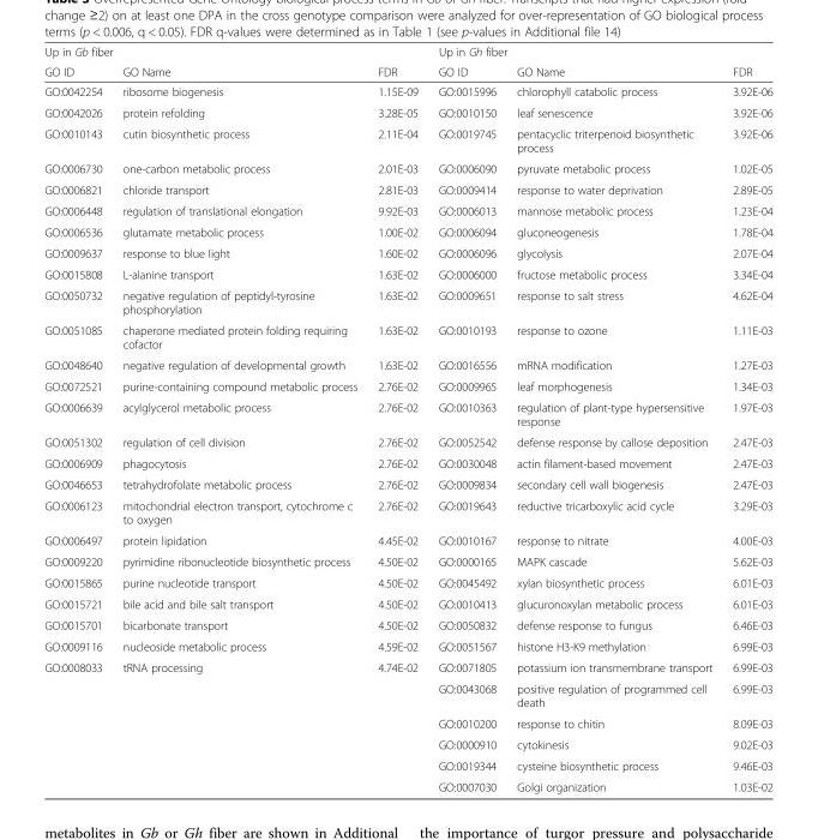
<table><thead><tr><td colspan="3">Up in Gb fiber</td><td colspan="3">Up in Gh fiber</td></tr><tr><td>GO ID</td><td>GO Name</td><td>FDR</td><td>GO ID</td><td>GO Name</td><td>FDR</td></tr></thead><tbody><tr><td>GO:0042254</td><td>ribosome biogenesis</td><td>1.15E-09</td><td>GO:0015996</td><td>chlorophyll catabolic process</td><td>3.92E-06</td></tr><tr><td>GO:0042026</td><td>protein refolding</td><td>3.28E-05</td><td>GO:0010150</td><td>leaf senescence</td><td>3.92E-06</td></tr><tr><td>GO:0010143</td><td>cutin biosynthetic process</td><td>2.11E-04</td><td>GO:0019745</td><td>pentacyclic triterpenoid biosynthetic process</td><td>3.92E-06</td></tr><tr><td>GO:0006730</td><td>one-carbon metabolic process</td><td>2.01E-03</td><td>GO:0006090</td><td>pyruvate metabolic process</td><td>1.02E-05</td></tr><tr><td>GO:0006821</td><td>chloride transport</td><td>2.81E-03</td><td>GO:0009414</td><td>response to water deprivation</td><td>2.89E-05</td></tr><tr><td>GO:0006448</td><td>regulation of translational elongation</td><td>9.92E-03</td><td>GO:0006013</td><td>mannose metabolic process</td><td>1.23E-04</td></tr><tr><td>GO:0006536</td><td>glutamate metabolic process</td><td>1.00E-02</td><td>GO:0006094</td><td>gluconeogenesis</td><td>1.78E-04</td></tr><tr><td>GO:0009637</td><td>response to blue light</td><td>1.60E-02</td><td>GO:0006096</td><td>glycolysis</td><td>2.07E-04</td></tr><tr><td>GO:0015808</td><td>L-alanine transport</td><td>1.63E-02</td><td>GO:0006000</td><td>fructose metabolic process</td><td>3.34E-04</td></tr><tr><td>GO:0050732</td><td>negative regulation of peptidyl-tyrosine phosphorylation</td><td>1.63E-02</td><td>GO:0009651</td><td>response to salt stress</td><td>4.62E-04</td></tr><tr><td>GO:0051085</td><td>chaperone mediated protein folding requiring cofactor</td><td>1.63E-02</td><td>GO:0010193</td><td>response to ozone</td><td>1.11E-03</td></tr><tr><td>GO:0048640</td><td>negative regulation of developmental growth</td><td>1.63E-02</td><td>GO:0016556</td><td>mRNA modification</td><td>1.27E-03</td></tr><tr><td>GO:0072521</td><td>purine-containing compound metabolic process</td><td>2.76E-02</td><td>GO:0009965</td><td>leaf morphogenesis</td><td>1.34E-03</td></tr><tr><td>GO:0006639</td><td>acylglycerol metabolic process</td><td>2.76E-02</td><td>GO:0010363</td><td>regulation of plant-type hypersensitive response</td><td>1.97E-03</td></tr><tr><td>GO:0051302</td><td>regulation of cell division</td><td>2.76E-02</td><td>GO:0052542</td><td>defense response by callose deposition</td><td>2.47E-03</td></tr><tr><td>GO:0006909</td><td>phagocytosis</td><td>2.76E-02</td><td>GO:0030048</td><td>actin filament-based movement</td><td>2.47E-03</td></tr><tr><td>GO:0046653</td><td>tetrahydrofolate metabolic process</td><td>2.76E-02</td><td>GO:0009834</td><td>secondary cell wall biogenesis</td><td>2.47E-03</td></tr><tr><td>GO:0006123</td><td>mitochondrial electron transport, cytochrome c to oxygen</td><td>2.76E-02</td><td>GO:0019643</td><td>reductive tricarboxylic acid cycle</td><td>3.29E-03</td></tr><tr><td>GO:0006497</td><td>protein lipidation</td><td>4.45E-02</td><td>GO:0010167</td><td>response to nitrate</td><td>4.00E-03</td></tr><tr><td>GO:0009220</td><td>pyrimidine ribonucleotide biosynthetic process</td><td>4.50E-02</td><td>GO:0000165</td><td>MAPK cascade</td><td>5.62E-03</td></tr><tr><td>GO:0015865</td><td>purine nucleotide transport</td><td>4.50E-02</td><td>GO:0045492</td><td>xylan biosynthetic process</td><td>6.01E-03</td></tr><tr><td>GO:0015721</td><td>bile acid and bile salt transport</td><td>4.50E-02</td><td>GO:0010413</td><td>glucuronoxylan metabolic process</td><td>6.01E-03</td></tr><tr><td>GO:0015701</td><td>bicarbonate transport</td><td>4.50E-02</td><td>GO:0050832</td><td>defense response to fungus</td><td>6.46E-03</td></tr><tr><td>GO:0009116</td><td>nucleoside metabolic process</td><td>4.59E-02</td><td>GO:0051567</td><td>histone H3-K9 methylation</td><td>6.99E-03</td></tr><tr><td rowspan="6">GO:0008033</td><td>tRNA processing</td><td>4.74E-02</td><td>GO:0071805</td><td>potassium ion transmembrane transport</td><td>6.99E-03</td></tr><tr><td></td><td></td><td>GO:0043068</td><td>positive regulation of programmed cell death</td><td>6.99E-03</td></tr><tr><td></td><td></td><td>GO:0010200</td><td>response to chitin</td><td>8.09E-03</td></tr><tr><td></td><td></td><td>GO:0000910</td><td>cytokinesis</td><td>9.02E-03</td></tr><tr><td></td><td></td><td>GO:0019344</td><td>cysteine biosynthetic process</td><td>9.46E-03</td></tr><tr><td></td><td></td><td>GO:0007030</td><td>Golgi organization</td><td>1.03E-02</td></tr></tbody></table>